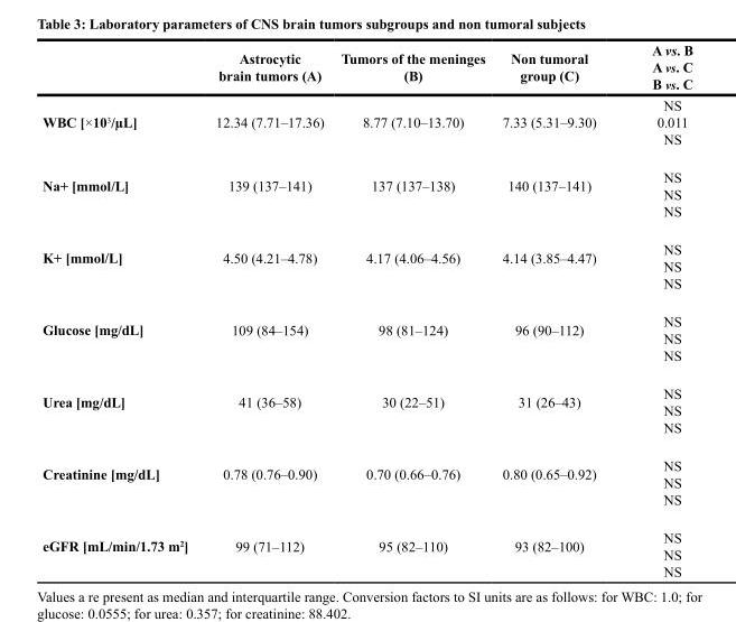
<table><thead><tr><td></td><td>Astrocytic brain tumors (A)</td><td>Tumors of the meninges (B)</td><td>Non tumoral group (C)</td><td>A vs. B A vs. C B vs. C</td></tr></thead><tbody><tr><td>WBC [×10<sup>3</sup>/µL]</td><td>12.34 (7.71–17.36)</td><td>8.77 (7.10–13.70)</td><td>7.33 (5.31–9.30)</td><td>NS 0.011 NS</td></tr><tr><td>Na+ [mmol/L]</td><td>139 (137–141)</td><td>137 (137–138)</td><td>140 (137–141)</td><td>NS NS NS</td></tr><tr><td>K+ [mmol/L]</td><td>4.50 (4.21–4.78)</td><td>4.17 (4.06–4.56)</td><td>4.14 (3.85–4.47)</td><td>NS NS NS</td></tr><tr><td>Glucose [mg/dL]</td><td>109 (84–154)</td><td>98 (81–124)</td><td>96 (90–112)</td><td>NS NS NS</td></tr><tr><td>Urea [mg/dL]</td><td>41 (36–58)</td><td>30 (22–51)</td><td>31 (26–43)</td><td>NS NS NS</td></tr><tr><td>Creatinine [mg/dL]</td><td>0.78 (0.76–0.90)</td><td>0.70 (0.66–0.76)</td><td>0.80 (0.65–0.92)</td><td>NS NS NS</td></tr><tr><td>eGFR [mL/min/1.73 m<sup>2</sup>]</td><td>99 (71–112)</td><td>95 (82–110)</td><td>93 (82–100)</td><td>NS NS NS</td></tr></tbody></table>